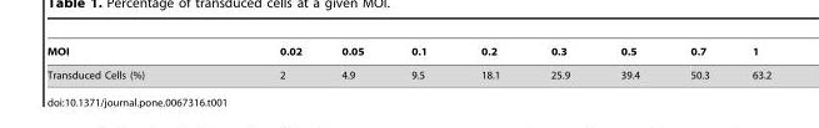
<table><thead><tr><td>MOI</td><td>0.02</td><td>0.05</td><td>0.1</td><td>0.2</td><td>0.3</td><td>0.5</td><td>0.7</td><td>1</td></tr></thead><tbody><tr><td>Transduced Cells (%)</td><td>2</td><td>4.9</td><td>9.5</td><td>18.1</td><td>25.9</td><td>39.4</td><td>50.3</td><td>63.2</td></tr></tbody></table>